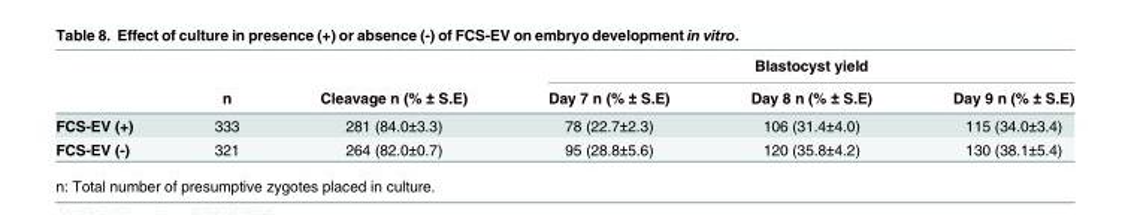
<table><thead><tr><td rowspan="2"></td><td rowspan="2">n</td><td rowspan="2">Cleavage n (% ± S.E)</td><td colspan="3">Blastocyst yield</td></tr><tr><td>Day 7 n (% ± S.E)</td><td>Day 8 n (% ± S.E)</td><td>Day 9 n (% ± S.E)</td></tr></thead><tbody><tr><td>FCS-EV (+)</td><td>333</td><td>281 (84.0±3.3)</td><td>78 (22.7±2.3)</td><td>106 (31.4±4.0)</td><td>115 (34.0±3.4)</td></tr><tr><td>FCS-EV (-)</td><td>321</td><td>264 (82.0±0.7)</td><td>95 (28.8±5.6)</td><td>120 (35.8±4.2)</td><td>130 (38.1±5.4)</td></tr></tbody></table>